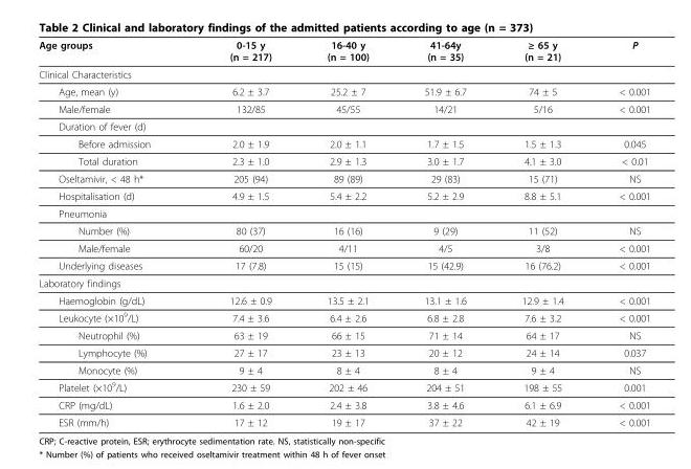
<table><thead><tr><td>Age groups</td><td>0-15 y (n = 217)</td><td>16-40 y (n = 100)</td><td>41-64y (n = 35)</td><td>≥ 65 y (n = 21)</td><td>P</td></tr></thead><tbody><tr><td colspan="6">Clinical Characteristics</td></tr><tr><td>Age, mean (y)</td><td>6.2 ± 3.7</td><td>25.2 ± 7</td><td>51.9 ± 6.7</td><td>74 ± 5</td><td>&lt; 0.001</td></tr><tr><td>Male/female</td><td>132/85</td><td>45/55</td><td>14/21</td><td>5/16</td><td>&lt; 0.001</td></tr><tr><td colspan="6">Duration of fever (d)</td></tr><tr><td>Before admission</td><td>2.0 ± 1.9</td><td>2.0 ± 1.1</td><td>1.7 ± 1.5</td><td>1.5 ± 1.3</td><td>0.045</td></tr><tr><td>Total duration</td><td>2.3 ± 1.0</td><td>2.9 ± 1.3</td><td>3.0 ± 1.7</td><td>4.1 ± 3.0</td><td>&lt; 0.01</td></tr><tr><td>Oseltamivir, &lt; 48 h*</td><td>205 (94)</td><td>89 (89)</td><td>29 (83)</td><td>15 (71)</td><td>NS</td></tr><tr><td>Hospitalisation (d)</td><td>4.9 ± 1.5</td><td>5.4 ± 2.2</td><td>5.2 ± 2.9</td><td>8.8 ± 5.1</td><td>&lt; 0.001</td></tr><tr><td colspan="6">Pneumonia</td></tr><tr><td>Number (%)</td><td>80 (37)</td><td>16 (16)</td><td>9 (29)</td><td>11 (52)</td><td>NS</td></tr><tr><td>Male/female</td><td>60/20</td><td>4/11</td><td>4/5</td><td>3/8</td><td>&lt; 0.001</td></tr><tr><td>Underlying diseases</td><td>17 (7.8)</td><td>15 (15)</td><td>15 (42.9)</td><td>16 (76.2)</td><td>&lt; 0.001</td></tr><tr><td colspan="6">Laboratory findings</td></tr><tr><td>Haemoglobin (g/dL)</td><td>12.6 ± 0.9</td><td>13.5 ± 2.1</td><td>13.1 ± 1.6</td><td>12.9 ± 1.4</td><td>&lt; 0.001</td></tr><tr><td>Leukocyte (×10<sup>9</sup>/L)</td><td>7.4 ± 3.6</td><td>6.4 ± 2.6</td><td>6.8 ± 2.8</td><td>7.6 ± 3.2</td><td>&lt; 0.001</td></tr><tr><td>Neutrophil (%)</td><td>63 ± 19</td><td>66 ± 15</td><td>71 ± 14</td><td>64 ± 17</td><td>NS</td></tr><tr><td>Lymphocyte (%)</td><td>27 ± 17</td><td>23 ± 13</td><td>20 ± 12</td><td>24 ± 14</td><td>0.037</td></tr><tr><td>Monocyte (%)</td><td>9 ± 4</td><td>8 ± 4</td><td>8 ± 4</td><td>9 ± 4</td><td>NS</td></tr><tr><td>Platelet (×10<sup>9</sup>/L)</td><td>230 ± 59</td><td>202 ± 46</td><td>204 ± 51</td><td>198 ± 55</td><td>0.001</td></tr><tr><td>CRP (mg/dL)</td><td>1.6 ± 2.0</td><td>2.4 ± 3.8</td><td>3.8 ± 4.6</td><td>6.1 ± 6.9</td><td>&lt; 0.001</td></tr><tr><td>ESR (mm/h)</td><td>17 ± 12</td><td>19 ± 17</td><td>37 ± 22</td><td>42 ± 19</td><td>&lt; 0.001</td></tr></tbody></table>